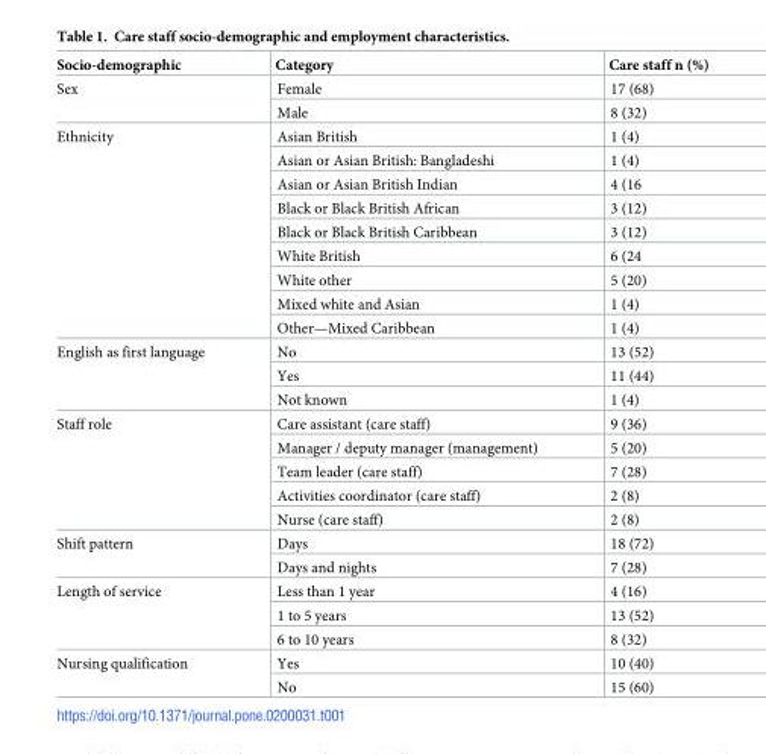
<table><thead><tr><td>Socio-demographic</td><td>Category</td><td>Care staff n (%)</td></tr></thead><tbody><tr><td rowspan="2">Sex</td><td>Female</td><td>17 (68)</td></tr><tr><td>Male</td><td>8 (32)</td></tr><tr><td rowspan="9">Ethnicity</td><td>Asian British</td><td>1 (4)</td></tr><tr><td>Asian or Asian British: Bangladeshi</td><td>1 (4)</td></tr><tr><td>Asian or Asian British Indian</td><td>4 (16</td></tr><tr><td>Black or Black British African</td><td>3 (12)</td></tr><tr><td>Black or Black British Caribbean</td><td>3 (12)</td></tr><tr><td>White British</td><td>6 (24</td></tr><tr><td>White other</td><td>5 (20)</td></tr><tr><td>Mixed white and Asian</td><td>1 (4)</td></tr><tr><td>Other—Mixed Caribbean</td><td>1 (4)</td></tr><tr><td rowspan="3">English as first language</td><td>No</td><td>13 (52)</td></tr><tr><td>Yes</td><td>11 (44)</td></tr><tr><td>Not known</td><td>1 (4)</td></tr><tr><td rowspan="5">Staff role</td><td>Care assistant (care staff)</td><td>9 (36)</td></tr><tr><td>Manager / deputy manager (management)</td><td>5 (20)</td></tr><tr><td>Team leader (care staff)</td><td>7 (28)</td></tr><tr><td>Activities coordinator (care staff)</td><td>2 (8)</td></tr><tr><td>Nurse (care staff)</td><td>2 (8)</td></tr><tr><td rowspan="2">Shift pattern</td><td>Days</td><td>18 (72)</td></tr><tr><td>Days and nights</td><td>7 (28)</td></tr><tr><td rowspan="3">Length of service</td><td>Less than 1 year</td><td>4 (16)</td></tr><tr><td>1 to 5 years</td><td>13 (52)</td></tr><tr><td>6 to 10 years</td><td>8 (32)</td></tr><tr><td rowspan="2">Nursing qualification</td><td>Yes</td><td>10 (40)</td></tr><tr><td>No</td><td>15 (60)</td></tr></tbody></table>